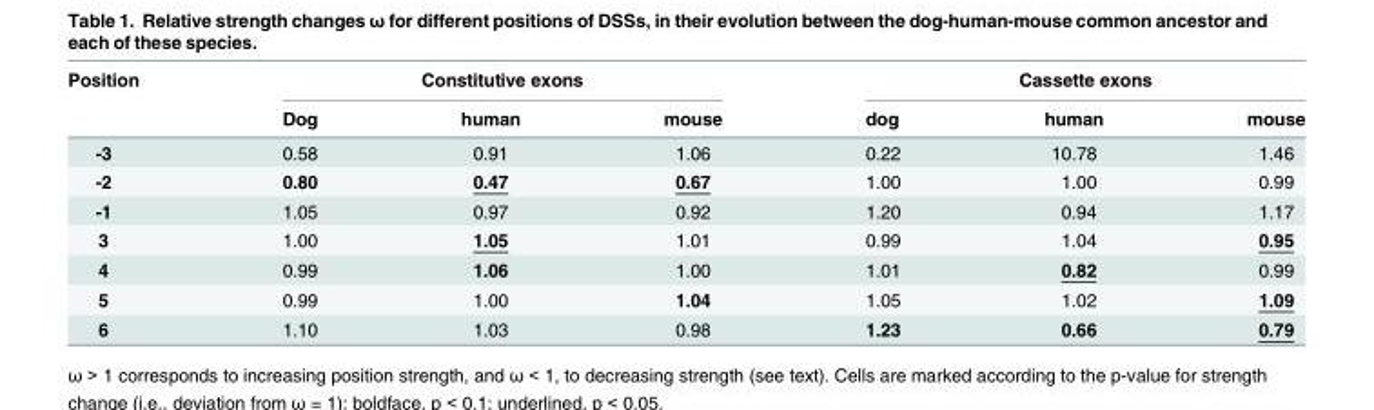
<table><thead><tr><td rowspan="2">Position</td><td colspan="3">Constitutive exons</td><td colspan="3">Cassette exons</td></tr><tr><td>Dog</td><td>human</td><td>mouse</td><td>dog</td><td>human</td><td>mouse</td></tr></thead><tbody><tr><td>-3</td><td>0.58</td><td>0.91</td><td>1.06</td><td>0.22</td><td>10.78</td><td>1.46</td></tr><tr><td>-2</td><td>0.80</td><td>0.47</td><td>0.67</td><td>1.00</td><td>1.00</td><td>0.99</td></tr><tr><td>-1</td><td>1.05</td><td>0.97</td><td>0.92</td><td>1.20</td><td>0.94</td><td>1.17</td></tr><tr><td>3</td><td>1.00</td><td>1.05</td><td>1.01</td><td>0.99</td><td>1.04</td><td>0.95</td></tr><tr><td>4</td><td>0.99</td><td>1.06</td><td>1.00</td><td>1.01</td><td>0.82</td><td>0.99</td></tr><tr><td>5</td><td>0.99</td><td>1.00</td><td>1.04</td><td>1.05</td><td>1.02</td><td>1.09</td></tr><tr><td>6</td><td>1.10</td><td>1.03</td><td>0.98</td><td>1.23</td><td>0.66</td><td>0.79</td></tr></tbody></table>